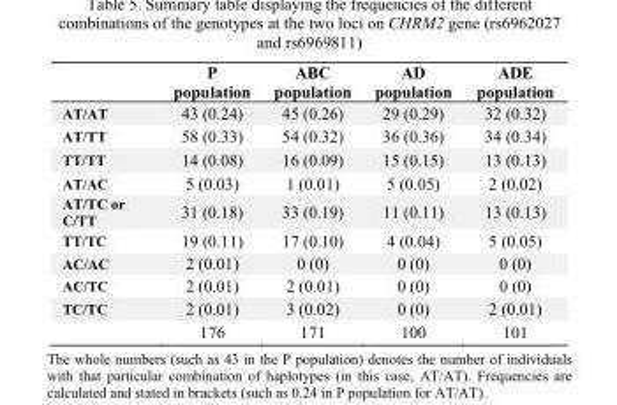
<table><thead><tr><td></td><td>P population</td><td>ABC population</td><td>AD population</td><td>ADE population</td></tr></thead><tbody><tr><td>AT/AT</td><td>43 (0.24)</td><td>45 (0.26)</td><td>29 (0.29)</td><td>32 (0.32)</td></tr><tr><td>AT/TT</td><td>58 (0.33)</td><td>54 (0.32)</td><td>36 (0.36)</td><td>34 (0.34)</td></tr><tr><td>TT/TT</td><td>14 (0.08)</td><td>16 (0.09)</td><td>15 (0.15)</td><td>13 (0.13)</td></tr><tr><td>AT/AC</td><td>5 (0.03)</td><td>1 (0.01)</td><td>5 (0.05)</td><td>2 (0.02)</td></tr><tr><td>AT/TC or C/TT</td><td>31 (0.18)</td><td>33 (0.19)</td><td>11 (0.11)</td><td>13 (0.13)</td></tr><tr><td>TT/TC</td><td>19 (0.11)</td><td>17 (0.10)</td><td>4 (0.04)</td><td>5 (0.05)</td></tr><tr><td>AC/AC</td><td>2 (0.01)</td><td>0 (0)</td><td>0 (0)</td><td>0 (0)</td></tr><tr><td>AC/TC</td><td>2 (0.01)</td><td>2 (0.01)</td><td>0 (0)</td><td>0 (0)</td></tr><tr><td rowspan="2">TC/TC</td><td>2 (0.01)</td><td>3 (0.02)</td><td>0 (0)</td><td>2 (0.01)</td></tr><tr><td>176</td><td>171</td><td>100</td><td>101</td></tr></tbody></table>